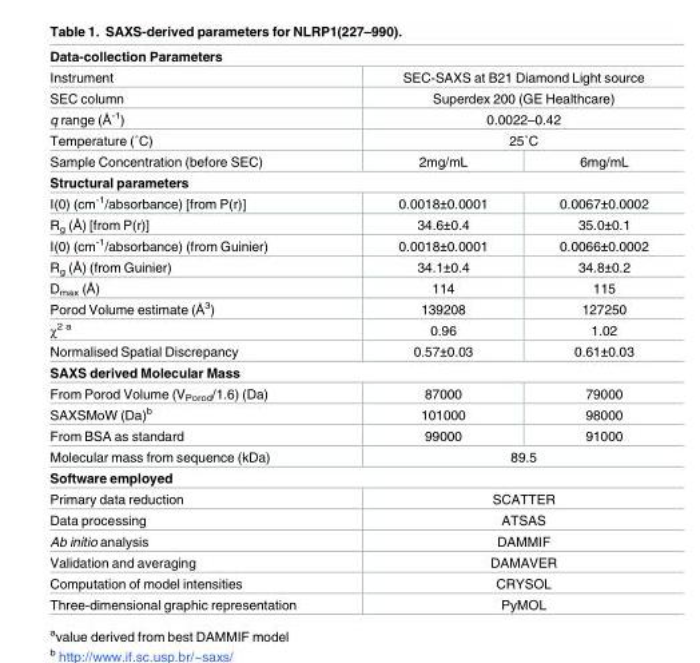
<table><tbody><tr><td colspan="3">Data-collection Parameters</td></tr><tr><td>Instrument</td><td colspan="2">SEC-SAXS at B21 Diamond Light source</td></tr><tr><td>SEC column</td><td colspan="2">Superdex 200 (GE Healthcare)</td></tr><tr><td>q range (Å<sup>-1</sup>)</td><td colspan="2">0.0022–0.42</td></tr><tr><td>Temperature (˚C)</td><td colspan="2">25˚C</td></tr><tr><td>Sample Concentration (before SEC)</td><td>2mg/mL</td><td>6mg/mL</td></tr><tr><td colspan="3">Structural parameters</td></tr><tr><td>I(0) (cm<sup>-1</sup>/absorbance) [from P(r)]</td><td>0.0018±0.0001</td><td>0.0067±0.0002</td></tr><tr><td>R<sub>g</sub> (Å) [from P(r)]</td><td>34.6±0.4</td><td>35.0±0.1</td></tr><tr><td>I(0) (cm<sup>-1</sup>/absorbance) (from Guinier)</td><td>0.0018±0.0001</td><td>0.0066±0.0002</td></tr><tr><td>R<sub>g</sub> (Å) (from Guinier)</td><td>34.1±0.4</td><td>34.8±0.2</td></tr><tr><td>D<sub>max</sub> (Å)</td><td>114</td><td>115</td></tr><tr><td>Porod Volume estimate (Å<sup>3</sup>)</td><td>139208</td><td>127250</td></tr><tr><td>χ<sup>2 a</sup></td><td>0.96</td><td>1.02</td></tr><tr><td>Normalised Spatial Discrepancy</td><td>0.57±0.03</td><td>0.61±0.03</td></tr><tr><td colspan="3">SAXS derived Molecular Mass</td></tr><tr><td>From Porod Volume (V<sub>Porod</sub>/1.6) (Da)</td><td>87000</td><td>79000</td></tr><tr><td>SAXSMoW (Da)<sup>b</sup></td><td>101000</td><td>98000</td></tr><tr><td>From BSA as standard</td><td>99000</td><td>91000</td></tr><tr><td>Molecular mass from sequence (kDa)</td><td colspan="2">89.5</td></tr><tr><td colspan="3">Software employed</td></tr><tr><td>Primary data reduction</td><td colspan="2">SCATTER</td></tr><tr><td>Data processing</td><td colspan="2">ATSAS</td></tr><tr><td>Ab initio analysis</td><td colspan="2">DAMMIF</td></tr><tr><td>Validation and averaging</td><td colspan="2">DAMAVER</td></tr><tr><td>Computation of model intensities</td><td colspan="2">CRYSOL</td></tr><tr><td>Three-dimensional graphic representation</td><td colspan="2">PyMOL</td></tr></tbody></table>